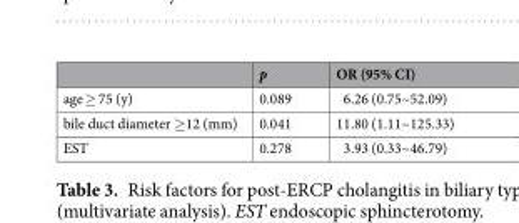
<table><thead><tr><td></td><td>p</td><td>OR (95% CI)</td></tr></thead><tbody><tr><td>age ≥ 75 (y)</td><td>0.089</td><td>6.26 (0.75~52.09)</td></tr><tr><td>bile duct diameter ≥12 (mm)</td><td>0.041</td><td>11.80 (1.11~125.33)</td></tr><tr><td>EST</td><td>0.278</td><td>3.93 (0.33~46.79)</td></tr></tbody></table>